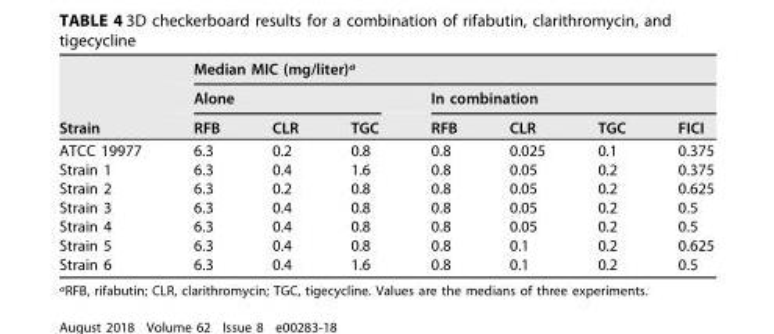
<table><thead><tr><td rowspan="3">Strain</td><td colspan="7">Median MIC (mg/liter)<sup>a</sup></td></tr><tr><td colspan="3">Alone</td><td colspan="4">In combination</td></tr><tr><td>RFB</td><td>CLR</td><td>TGC</td><td>RFB</td><td>CLR</td><td>TGC</td><td>FICI</td></tr></thead><tbody><tr><td>ATCC 19977</td><td>6.3</td><td>0.2</td><td>0.8</td><td>0.8</td><td>0.025</td><td>0.1</td><td>0.375</td></tr><tr><td>Strain 1</td><td>6.3</td><td>0.4</td><td>1.6</td><td>0.8</td><td>0.05</td><td>0.2</td><td>0.375</td></tr><tr><td>Strain 2</td><td>6.3</td><td>0.2</td><td>0.8</td><td>0.8</td><td>0.05</td><td>0.2</td><td>0.625</td></tr><tr><td>Strain 3</td><td>6.3</td><td>0.4</td><td>0.8</td><td>0.8</td><td>0.05</td><td>0.2</td><td>0.5</td></tr><tr><td>Strain 4</td><td>6.3</td><td>0.4</td><td>0.8</td><td>0.8</td><td>0.05</td><td>0.2</td><td>0.5</td></tr><tr><td>Strain 5</td><td>6.3</td><td>0.4</td><td>0.8</td><td>0.8</td><td>0.1</td><td>0.2</td><td>0.625</td></tr><tr><td>Strain 6</td><td>6.3</td><td>0.4</td><td>1.6</td><td>0.8</td><td>0.1</td><td>0.2</td><td>0.5</td></tr></tbody></table>